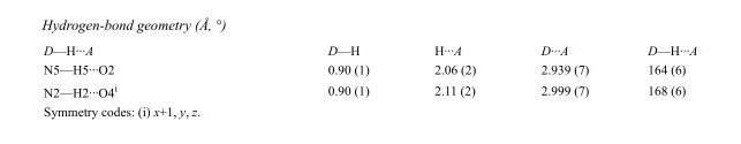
<table><tbody><tr><td>D—H···A</td><td>D—H</td><td>H···A</td><td>D···A</td><td>D—H···A</td></tr><tr><td>N5—H5···O2</td><td>0.90 (1)</td><td>2.06 (2)</td><td>2.939 (7)</td><td>164 (6)</td></tr><tr><td>N2—H2···O4<sup>i</sup></td><td>0.90 (1)</td><td>2.11 (2)</td><td>2.999 (7)</td><td>168 (6)</td></tr></tbody></table>